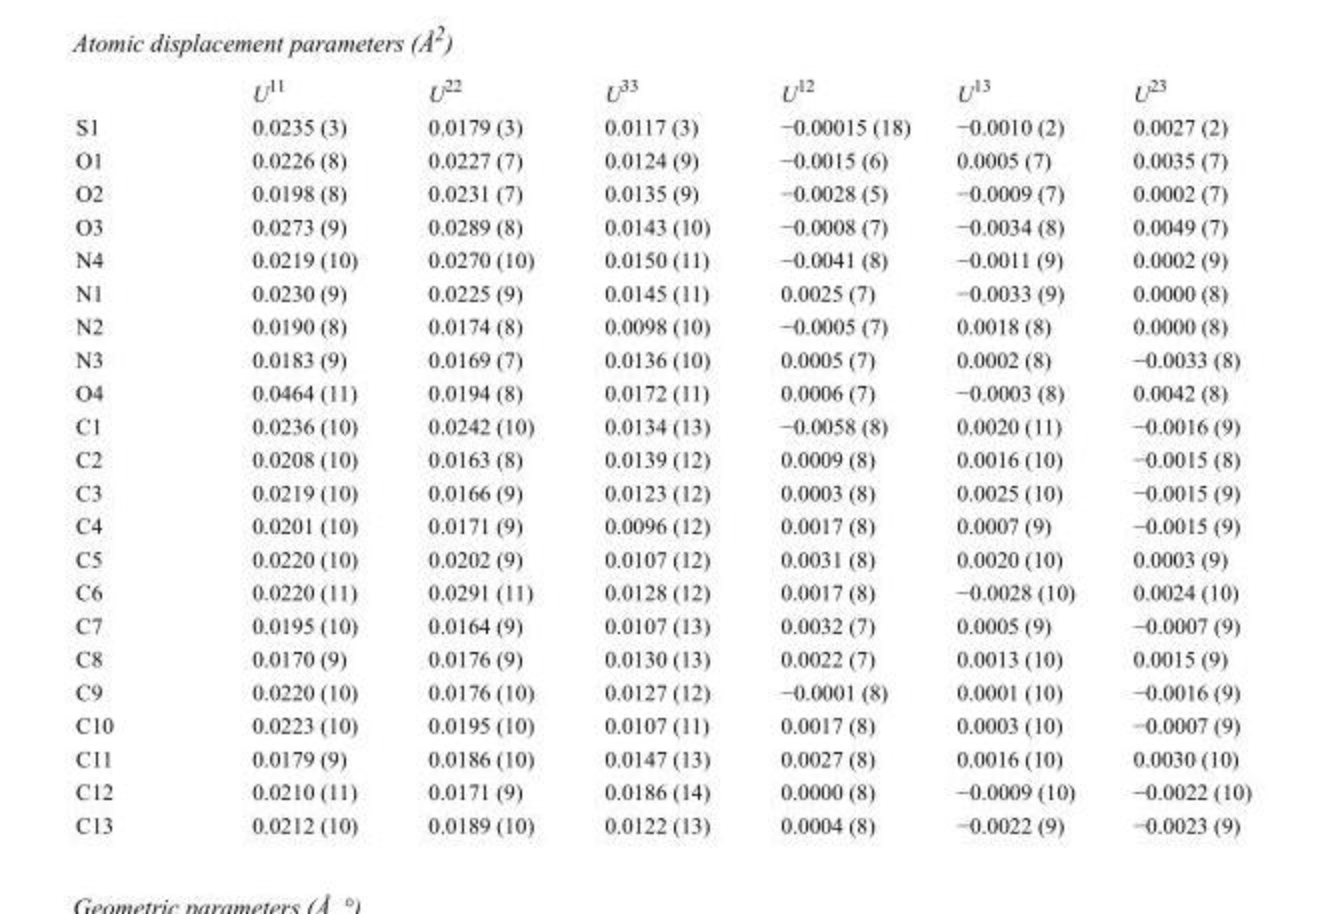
<table><thead><tr><td></td><td>U<sup>11</sup></td><td>U<sup>22</sup></td><td>U<sup>33</sup></td><td>U<sup>12</sup></td><td>U<sup>13</sup></td><td>U<sup>23</sup></td></tr></thead><tbody><tr><td>S1</td><td>0.0235 (3)</td><td>0.0179 (3)</td><td>0.0117 (3)</td><td>−0.00015 (18)</td><td>−0.0010 (2)</td><td>0.0027 (2)</td></tr><tr><td>O1</td><td>0.0226 (8)</td><td>0.0227 (7)</td><td>0.0124 (9)</td><td>−0.0015 (6)</td><td>0.0005 (7)</td><td>0.0035 (7)</td></tr><tr><td>O2</td><td>0.0198 (8)</td><td>0.0231 (7)</td><td>0.0135 (9)</td><td>−0.0028 (5)</td><td>−0.0009 (7)</td><td>0.0002 (7)</td></tr><tr><td>O3</td><td>0.0273 (9)</td><td>0.0289 (8)</td><td>0.0143 (10)</td><td>−0.0008 (7)</td><td>−0.0034 (8)</td><td>0.0049 (7)</td></tr><tr><td>N4</td><td>0.0219 (10)</td><td>0.0270 (10)</td><td>0.0150 (11)</td><td>−0.0041 (8)</td><td>−0.0011 (9)</td><td>0.0002 (9)</td></tr><tr><td>N1</td><td>0.0230 (9)</td><td>0.0225 (9)</td><td>0.0145 (11)</td><td>0.0025 (7)</td><td>−0.0033 (9)</td><td>0.0000 (8)</td></tr><tr><td>N2</td><td>0.0190 (8)</td><td>0.0174 (8)</td><td>0.0098 (10)</td><td>−0.0005 (7)</td><td>0.0018 (8)</td><td>0.0000 (8)</td></tr><tr><td>N3</td><td>0.0183 (9)</td><td>0.0169 (7)</td><td>0.0136 (10)</td><td>0.0005 (7)</td><td>0.0002 (8)</td><td>−0.0033 (8)</td></tr><tr><td>O4</td><td>0.0464 (11)</td><td>0.0194 (8)</td><td>0.0172 (11)</td><td>0.0006 (7)</td><td>−0.0003 (8)</td><td>0.0042 (8)</td></tr><tr><td>C1</td><td>0.0236 (10)</td><td>0.0242 (10)</td><td>0.0134 (13)</td><td>−0.0058 (8)</td><td>0.0020 (11)</td><td>−0.0016 (9)</td></tr><tr><td>C2</td><td>0.0208 (10)</td><td>0.0163 (8)</td><td>0.0139 (12)</td><td>0.0009 (8)</td><td>0.0016 (10)</td><td>−0.0015 (8)</td></tr><tr><td>C3</td><td>0.0219 (10)</td><td>0.0166 (9)</td><td>0.0123 (12)</td><td>0.0003 (8)</td><td>0.0025 (10)</td><td>−0.0015 (9)</td></tr><tr><td>C4</td><td>0.0201 (10)</td><td>0.0171 (9)</td><td>0.0096 (12)</td><td>0.0017 (8)</td><td>0.0007 (9)</td><td>−0.0015 (9)</td></tr><tr><td>C5</td><td>0.0220 (10)</td><td>0.0202 (9)</td><td>0.0107 (12)</td><td>0.0031 (8)</td><td>0.0020 (10)</td><td>0.0003 (9)</td></tr><tr><td>C6</td><td>0.0220 (11)</td><td>0.0291 (11)</td><td>0.0128 (12)</td><td>0.0017 (8)</td><td>−0.0028 (10)</td><td>0.0024 (10)</td></tr><tr><td>C7</td><td>0.0195 (10)</td><td>0.0164 (9)</td><td>0.0107 (13)</td><td>0.0032 (7)</td><td>0.0005 (9)</td><td>−0.0007 (9)</td></tr><tr><td>C8</td><td>0.0170 (9)</td><td>0.0176 (9)</td><td>0.0130 (13)</td><td>0.0022 (7)</td><td>0.0013 (10)</td><td>0.0015 (9)</td></tr><tr><td>C9</td><td>0.0220 (10)</td><td>0.0176 (10)</td><td>0.0127 (12)</td><td>−0.0001 (8)</td><td>0.0001 (10)</td><td>−0.0016 (9)</td></tr><tr><td>C10</td><td>0.0223 (10)</td><td>0.0195 (10)</td><td>0.0107 (11)</td><td>0.0017 (8)</td><td>0.0003 (10)</td><td>−0.0007 (9)</td></tr><tr><td>C11</td><td>0.0179 (9)</td><td>0.0186 (10)</td><td>0.0147 (13)</td><td>0.0027 (8)</td><td>0.0016 (10)</td><td>0.0030 (10)</td></tr><tr><td>C12</td><td>0.0210 (11)</td><td>0.0171 (9)</td><td>0.0186 (14)</td><td>0.0000 (8)</td><td>−0.0009 (10)</td><td>−0.0022 (10)</td></tr><tr><td>C13</td><td>0.0212 (10)</td><td>0.0189 (10)</td><td>0.0122 (13)</td><td>0.0004 (8)</td><td>−0.0022 (9)</td><td>−0.0023 (9)</td></tr></tbody></table>